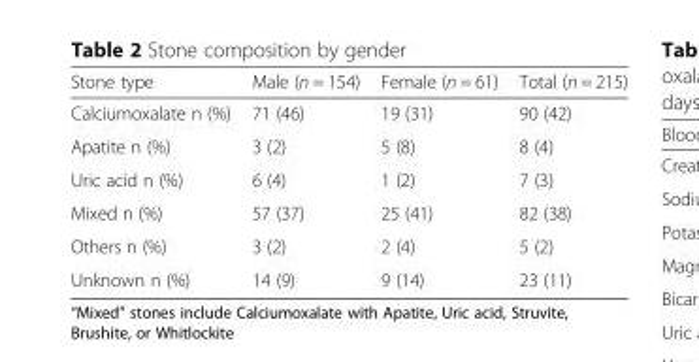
<table><thead><tr><td>Stone type</td><td>Male (n = 154)</td><td>Female (n = 61)</td><td>Total (n = 215)</td></tr></thead><tbody><tr><td>Calciumoxalate n (%)</td><td>71 (46)</td><td>19 (31)</td><td>90 (42)</td></tr><tr><td>Apatite n (%)</td><td>3 (2)</td><td>5 (8)</td><td>8 (4)</td></tr><tr><td>Uric acid n (%)</td><td>6 (4)</td><td>1 (2)</td><td>7 (3)</td></tr><tr><td>Mixed n (%)</td><td>57 (37)</td><td>25 (41)</td><td>82 (38)</td></tr><tr><td>Others n (%)</td><td>3 (2)</td><td>2 (4)</td><td>5 (2)</td></tr><tr><td>Unknown n (%)</td><td>14 (9)</td><td>9 (14)</td><td>23 (11)</td></tr></tbody></table>